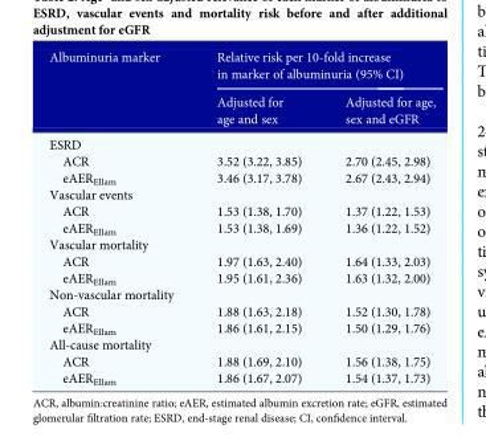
<table><thead><tr><td rowspan="2">Albuminuria marker</td><td colspan="2">Relative risk per 10-fold increase in marker of albuminuria (95% CI)</td></tr><tr><td>Adjusted for age and sex</td><td>Adjusted for age, sex and eGFR</td></tr></thead><tbody><tr><td colspan="3">ESRD</td></tr><tr><td>ACR</td><td>3.52 (3.22, 3.85)</td><td>2.70 (2.45, 2.98)</td></tr><tr><td>eAER<sub>Ellam</sub></td><td>3.46 (3.17, 3.78)</td><td>2.67 (2.43, 2.94)</td></tr><tr><td colspan="3">Vascular events</td></tr><tr><td>ACR</td><td>1.53 (1.38, 1.70)</td><td>1.37 (1.22, 1.53)</td></tr><tr><td>eAER<sub>Ellam</sub></td><td>1.53 (1.38, 1.69)</td><td>1.36 (1.22, 1.52)</td></tr><tr><td colspan="3">Vascular mortality</td></tr><tr><td>ACR</td><td>1.97 (1.63, 2.40)</td><td>1.64 (1.33, 2.03)</td></tr><tr><td>eAER<sub>Ellam</sub></td><td>1.95 (1.61, 2.36)</td><td>1.63 (1.32, 2.00)</td></tr><tr><td colspan="3">Non-vascular mortality</td></tr><tr><td>ACR</td><td>1.88 (1.63, 2.18)</td><td>1.52 (1.30, 1.78)</td></tr><tr><td>eAER<sub>Ellam</sub></td><td>1.86 (1.61, 2.15)</td><td>1.50 (1.29, 1.76)</td></tr><tr><td colspan="3">All-cause mortality</td></tr><tr><td>ACR</td><td>1.88 (1.69, 2.10)</td><td>1.56 (1.38, 1.75)</td></tr><tr><td>eAER<sub>Ellam</sub></td><td>1.86 (1.67, 2.07)</td><td>1.54 (1.37, 1.73)</td></tr></tbody></table>